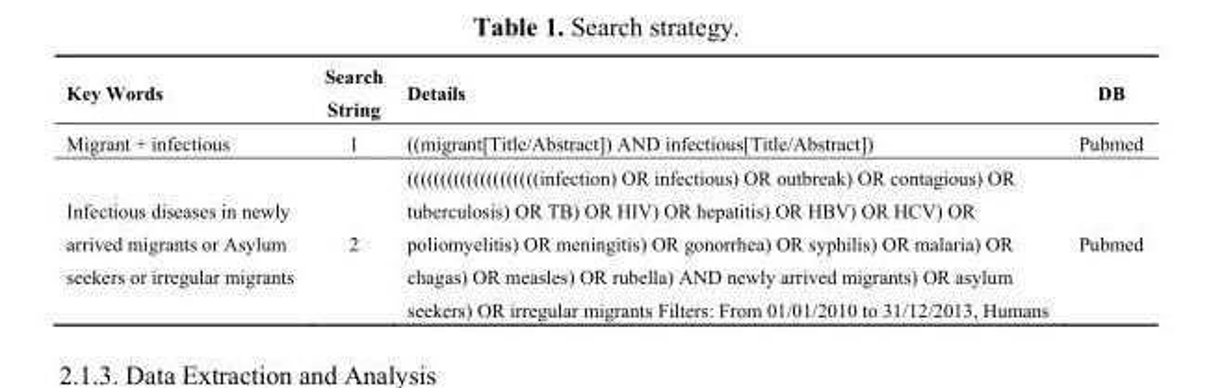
<table><thead><tr><td>Key Words</td><td>Search String</td><td>Details</td><td>DB</td></tr></thead><tbody><tr><td>Migrant + infectious</td><td>1</td><td>((migrant[Title/Abstract]) AND infectious[Title/Abstract])</td><td>Pubmed</td></tr><tr><td>Infectious diseases in newly arrived migrants or Asylum seekers or irregular migrants</td><td>2</td><td>((((((((((((((((((((infection) OR infectious) OR outbreak) OR contagious) OR tuberculosis) OR TB) OR HIV) OR hepatitis) OR HBV) OR HCV) OR poliomyelitis) OR meningitis) OR gonorrhea) OR syphilis) OR malaria) OR chagas) OR measles) OR rubella) AND newly arrived migrants) OR asylum seekers) OR irregular migrants Filters: From 01/01/2010 to 31/12/2013, Humans</td><td>Pubmed</td></tr></tbody></table>